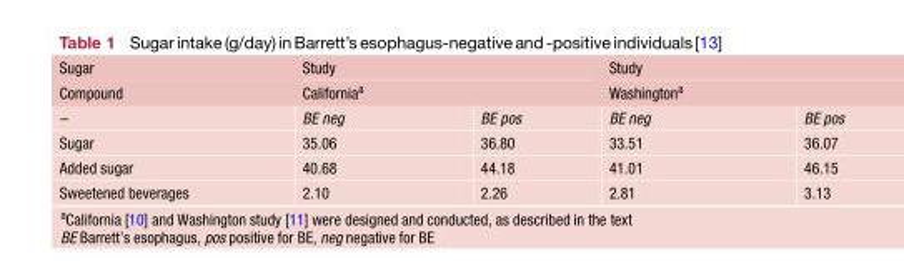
<table><thead><tr><td rowspan="3">Sugar Compound –</td><td rowspan="2" colspan="2">Study California<sup>a</sup></td><td rowspan="2" colspan="2">Study Washington<sup>a</sup></td></tr><tr></tr><tr><td>BE neg</td><td>BE pos</td><td>BE neg</td><td>BE pos</td></tr></thead><tbody><tr><td>Sugar</td><td>35.06</td><td>36.80</td><td>33.51</td><td>36.07</td></tr><tr><td>Added sugar</td><td>40.68</td><td>44.18</td><td>41.01</td><td>46.15</td></tr><tr><td>Sweetened beverages</td><td>2.10</td><td>2.26</td><td>2.81</td><td>3.13</td></tr></tbody></table>